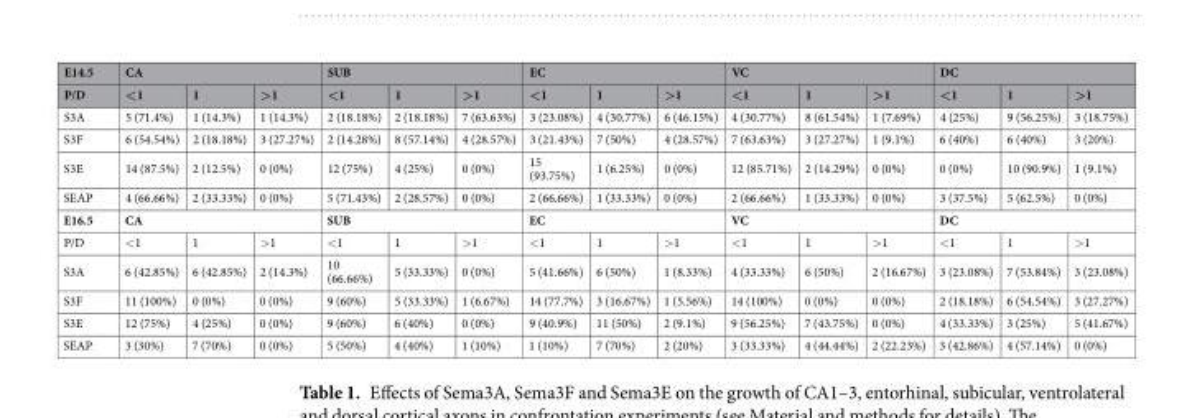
<table><thead><tr><td rowspan="2">E14.5 P/D</td><td colspan="3">CA</td><td colspan="3">SUB</td><td colspan="3">EC</td><td colspan="3">VC</td><td colspan="3">DC</td></tr><tr><td>&lt;1</td><td>1</td><td>&gt;1</td><td>&lt;1</td><td>1</td><td>&gt;1</td><td>&lt;1</td><td>1</td><td>&gt;1</td><td>&lt;1</td><td>1</td><td>&gt;1</td><td>&lt;1</td><td>1</td><td>&gt;1</td></tr></thead><tbody><tr><td>S3A</td><td>5 (71.4%)</td><td>1 (14.3%)</td><td>1 (14.3%)</td><td>2 (18.18%)</td><td>2 (18.18%)</td><td>7 (63.63%)</td><td>3 (23.08%)</td><td>4 (30.77%)</td><td>6 (46.15%)</td><td>4 (30.77%)</td><td>8 (61.54%)</td><td>1 (7.69%)</td><td>4 (25%)</td><td>9 (56.25%)</td><td>3 (18.75%)</td></tr><tr><td>S3F</td><td>6 (54.54%)</td><td>2 (18.18%)</td><td>3 (27.27%)</td><td>2 (14.28%)</td><td>8 (57.14%)</td><td>4 (28.57%)</td><td>3 (21.43%)</td><td>7 (50%)</td><td>4 (28.57%)</td><td>7 (63.63%)</td><td>3 (27.27%)</td><td>1 (9.1%)</td><td>6 (40%)</td><td>6 (40%)</td><td>3 (20%)</td></tr><tr><td>S3E</td><td>14 (87.5%)</td><td>2 (12.5%)</td><td>0 (0%)</td><td>12 (75%)</td><td>4 (25%)</td><td>0 (0%)</td><td>15 (93.75%)</td><td>1 (6.25%)</td><td>0 (0%)</td><td>12 (85.71%)</td><td>2 (14.29%)</td><td>0 (0%)</td><td>0 (0%)</td><td>10 (90.9%)</td><td>1 (9.1%)</td></tr><tr><td>SEAP</td><td>4 (66.66%)</td><td>2 (33.33%)</td><td>0 (0%)</td><td>5 (71.43%)</td><td>2 (28.57%)</td><td>0 (0%)</td><td>2 (66.66%)</td><td>1 (33.33%)</td><td>0 (0%)</td><td>2 (66.66%)</td><td>1 (33.33%)</td><td>0 (0%)</td><td>3 (37.5%)</td><td>5 (62.5%)</td><td>0 (0%)</td></tr><tr><td>E16.5</td><td colspan="3">CA</td><td colspan="3">SUB</td><td colspan="3">EC</td><td colspan="3">VC</td><td colspan="3">DC</td></tr><tr><td>P/D</td><td>&lt;1</td><td>1</td><td>&gt;1</td><td>&lt;1</td><td>1</td><td>&gt;1</td><td>&lt;1</td><td>1</td><td>&gt;1</td><td>&lt;1</td><td>1</td><td>&gt;1</td><td>&lt;1</td><td>1</td><td>&gt;1</td></tr><tr><td>S3A</td><td>6 (42.85%)</td><td>6 (42.85%)</td><td>2 (14.3%)</td><td>10 (66.66%)</td><td>5 (33.33%)</td><td>0 (0%)</td><td>5 (41.66%)</td><td>6 (50%)</td><td>1 (8.33%)</td><td>4 (33.33%)</td><td>6 (50%)</td><td>2 (16.67%)</td><td>3 (23.08%)</td><td>7 (53.84%)</td><td>3 (23.08%)</td></tr><tr><td>S3F</td><td>11 (100%)</td><td>0 (0%)</td><td>0 (0%)</td><td>9 (60%)</td><td>5 (33.33%)</td><td>1 (6.67%)</td><td>14 (77.7%)</td><td>3 (16.67%)</td><td>1 (5.56%)</td><td>14 (100%)</td><td>0 (0%)</td><td>0 (0%)</td><td>2 (18.18%)</td><td>6 (54.54%)</td><td>3 (27.27%)</td></tr><tr><td>S3E</td><td>12 (75%)</td><td>4 (25%)</td><td>0 (0%)</td><td>9 (60%)</td><td>6 (40%)</td><td>0 (0%)</td><td>9 (40.9%)</td><td>11 (50%)</td><td>2 (9.1%)</td><td>9 (56.25%)</td><td>7 (43.75%)</td><td>0 (0%)</td><td>4 (33.33%)</td><td>3 (25%)</td><td>5 (41.67%)</td></tr><tr><td>SEAP</td><td>3 (30%)</td><td>7 (70%)</td><td>0 (0%)</td><td>5 (50%)</td><td>4 (40%)</td><td>1 (10%)</td><td>1 (10%)</td><td>7 (70%)</td><td>2 (20%)</td><td>3 (33.33%)</td><td>4 (44.44%)</td><td>2 (22.23%)</td><td>3 (42.86%)</td><td>4 (57.14%)</td><td>0 (0%)</td></tr></tbody></table>